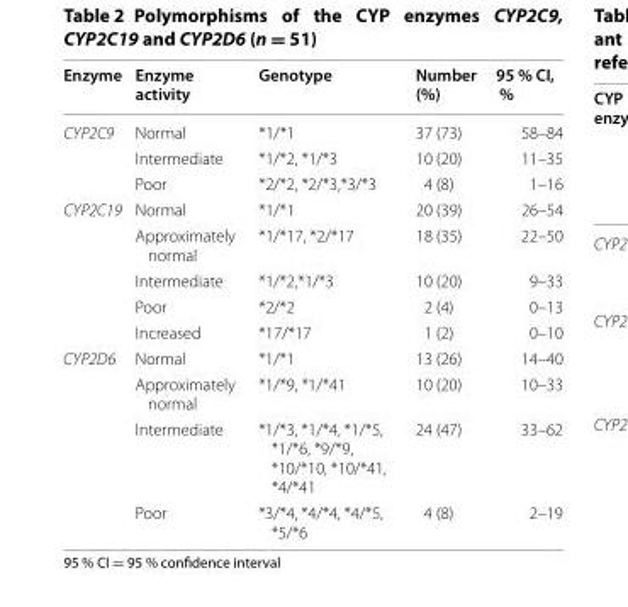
<table><thead><tr><td>Enzyme</td><td>Enzyme activity</td><td>Genotype</td><td>Number (%)</td><td>95 % CI, %</td></tr></thead><tbody><tr><td rowspan="3">CYP2C9</td><td>Normal</td><td>*1/*1</td><td>37 (73)</td><td>58–84</td></tr><tr><td>Intermediate</td><td>*1/*2, *1/*3</td><td>10 (20)</td><td>11–35</td></tr><tr><td>Poor</td><td>*2/*2, *2/*3,*3/*3</td><td>4 (8)</td><td>1–16</td></tr><tr><td rowspan="5">CYP2C19</td><td>Normal</td><td>*1/*1</td><td>20 (39)</td><td>26–54</td></tr><tr><td>Approximately normal</td><td>*1/*17, *2/*17</td><td>18 (35)</td><td>22–50</td></tr><tr><td>Intermediate</td><td>*1/*2,*1/*3</td><td>10 (20)</td><td>9–33</td></tr><tr><td>Poor</td><td>*2/*2</td><td>2 (4)</td><td>0–13</td></tr><tr><td>Increased</td><td>*17/*17</td><td>1 (2)</td><td>0–10</td></tr><tr><td rowspan="4">CYP2D6</td><td>Normal</td><td>*1/*1</td><td>13 (26)</td><td>14–40</td></tr><tr><td>Approximately normal</td><td>*1/*9, *1/*41</td><td>10 (20)</td><td>10–33</td></tr><tr><td>Intermediate</td><td>*1/*3, *1/*4, *1/*5, *1/*6, *9/*9, *10/*10, *10/*41, *4/*41</td><td>24 (47)</td><td>33–62</td></tr><tr><td>Poor</td><td>*3/*4, *4/*4, *4/*5, *5/*6</td><td>4 (8)</td><td>2–19</td></tr></tbody></table>